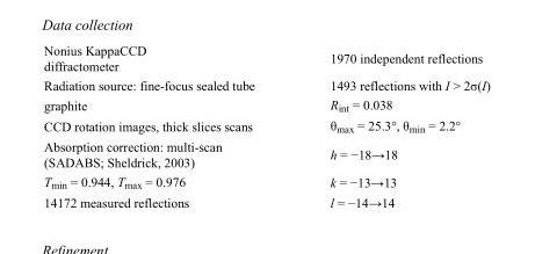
<table><tbody><tr><td>Nonius KappaCCD diffractometer</td><td>1970 independent reflections</td></tr><tr><td>Radiation source: fine-focus sealed tube</td><td>1493 reflections with I &gt; 2σ(I)</td></tr><tr><td>graphite</td><td>R<sub>int</sub> = 0.038</td></tr><tr><td>CCD rotation images, thick slices scans</td><td>θ<sub>max</sub> = 25.3°, θ<sub>min</sub> = 2.2°</td></tr><tr><td>Absorption correction: multi-scan (SADABS; Sheldrick, 2003)</td><td>h = −18→18</td></tr><tr><td>T<sub>min</sub> = 0.944, T<sub>max</sub> = 0.976</td><td>k = −13→13</td></tr><tr><td>14172 measured reflections</td><td>l = −14→14</td></tr></tbody></table>